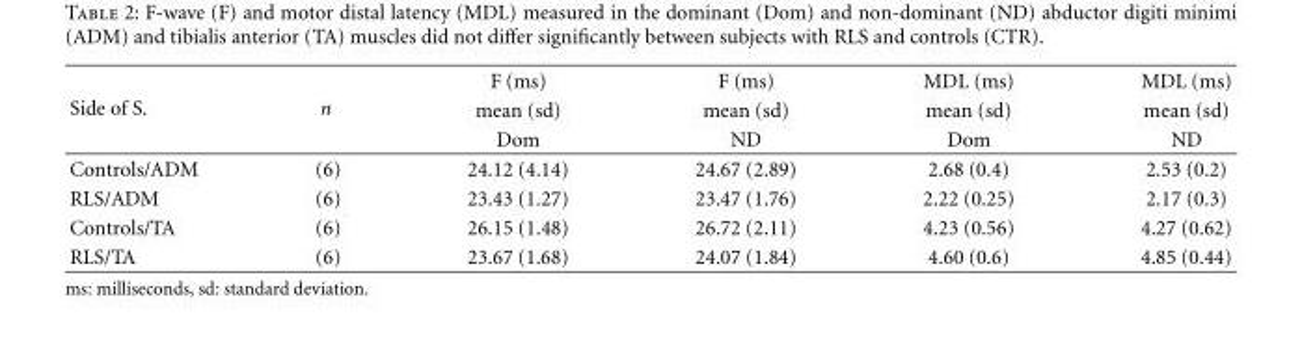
<table><thead><tr><td rowspan="3">Side of S.</td><td rowspan="3">n</td><td rowspan="3">F (ms) mean (sd) Dom</td><td rowspan="3">F (ms) mean (sd) ND</td><td rowspan="3">MDL (ms) mean (sd) Dom</td><td rowspan="3">MDL (ms) mean (sd) ND</td></tr><tr></tr><tr></tr></thead><tbody><tr><td>Controls/ADM</td><td>(6)</td><td>24.12 (4.14)</td><td>24.67 (2.89)</td><td>2.68 (0.4)</td><td>2.53 (0.2)</td></tr><tr><td>RLS/ADM</td><td>(6)</td><td>23.43 (1.27)</td><td>23.47 (1.76)</td><td>2.22 (0.25)</td><td>2.17 (0.3)</td></tr><tr><td>Controls/TA</td><td>(6)</td><td>26.15 (1.48)</td><td>26.72 (2.11)</td><td>4.23 (0.56)</td><td>4.27 (0.62)</td></tr><tr><td>RLS/TA</td><td>(6)</td><td>23.67 (1.68)</td><td>24.07 (1.84)</td><td>4.60 (0.6)</td><td>4.85 (0.44)</td></tr></tbody></table>